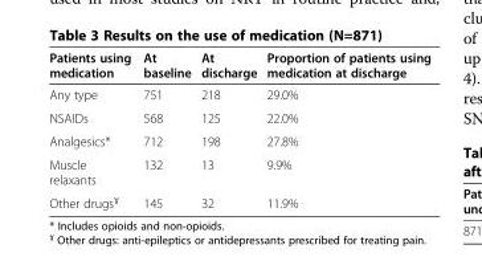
<table><thead><tr><td>Patients using medication</td><td>At baseline</td><td>At discharge</td><td>Proportion of patients using medication at discharge</td></tr></thead><tbody><tr><td>Any type</td><td>751</td><td>218</td><td>29.0%</td></tr><tr><td>NSAIDs</td><td>568</td><td>125</td><td>22.0%</td></tr><tr><td>Analgesics*</td><td>712</td><td>198</td><td>27.8%</td></tr><tr><td>Muscle relaxants</td><td>132</td><td>13</td><td>9.9%</td></tr><tr><td>Other drugs<sup>ɣ</sup></td><td>145</td><td>32</td><td>11.9%</td></tr></tbody></table>